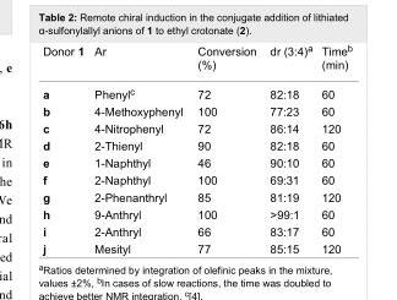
<table><tbody><tr><td>Donor 1</td><td>Ar</td><td>Conversion (%)</td><td>dr (3:4)<sup>a</sup></td><td>Time<sup>b</sup> (min)</td></tr><tr><td>a</td><td>Phenyl<sup>c</sup></td><td>72</td><td>82:18</td><td>60</td></tr><tr><td>b</td><td>4-Methoxyphenyl</td><td>100</td><td>77:23</td><td>60</td></tr><tr><td>c</td><td>4-Nitrophenyl</td><td>72</td><td>86:14</td><td>120</td></tr><tr><td>d</td><td>2-Thienyl</td><td>90</td><td>82:18</td><td>60</td></tr><tr><td>e</td><td>1-Naphthyl</td><td>46</td><td>90:10</td><td>60</td></tr><tr><td>f</td><td>2-Naphthyl</td><td>100</td><td>69:31</td><td>60</td></tr><tr><td>g</td><td>2-Phenanthryl</td><td>85</td><td>81:19</td><td>120</td></tr><tr><td>h</td><td>9-Anthryl</td><td>100</td><td>&gt;99:1</td><td>60</td></tr><tr><td>i</td><td>2-Anthryl</td><td>66</td><td>83:17</td><td>60</td></tr><tr><td>j</td><td>Mesityl</td><td>77</td><td>85:15</td><td>120</td></tr></tbody></table>